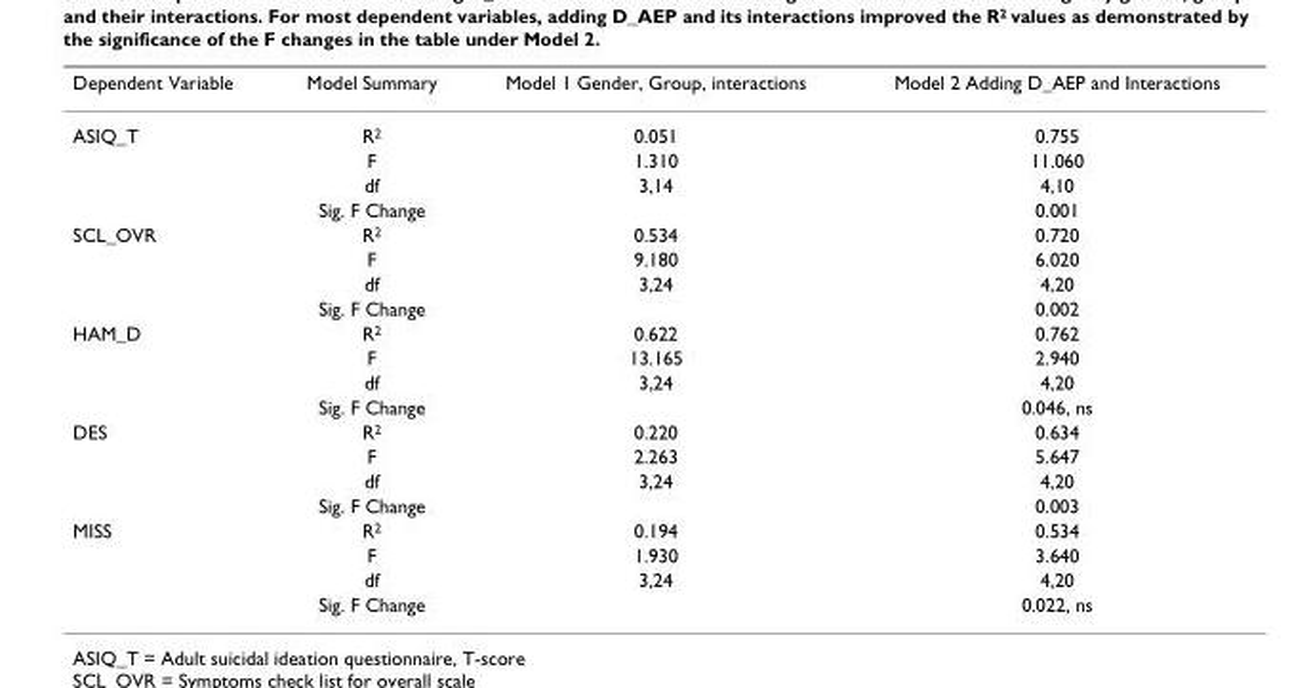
<table><thead><tr><td>Dependent Variable</td><td>Model Summary</td><td>Model 1 Gender, Group, interactions</td><td>Model 2 Adding D_AEP and Interactions</td></tr></thead><tbody><tr><td rowspan="4">ASIQ_T</td><td>R<sup>2</sup></td><td>0.051</td><td>0.755</td></tr><tr><td>F</td><td>1.310</td><td>11.060</td></tr><tr><td>df</td><td>3,14</td><td>4,10</td></tr><tr><td>Sig. F Change</td><td></td><td>0.001</td></tr><tr><td rowspan="4">SCL_OVR</td><td>R<sup>2</sup></td><td>0.534</td><td>0.720</td></tr><tr><td>F</td><td>9.180</td><td>6.020</td></tr><tr><td>df</td><td>3,24</td><td>4,20</td></tr><tr><td>Sig. F Change</td><td></td><td>0.002</td></tr><tr><td rowspan="4">HAM_D</td><td>R<sup>2</sup></td><td>0.622</td><td>0.762</td></tr><tr><td>F</td><td>13.165</td><td>2.940</td></tr><tr><td>df</td><td>3,24</td><td>4,20</td></tr><tr><td>Sig. F Change</td><td></td><td>0.046, ns</td></tr><tr><td rowspan="4">DES</td><td>R<sup>2</sup></td><td>0.220</td><td>0.634</td></tr><tr><td>F</td><td>2.263</td><td>5.647</td></tr><tr><td>df</td><td>3,24</td><td>4,20</td></tr><tr><td>Sig. F Change</td><td></td><td>0.003</td></tr><tr><td rowspan="4">MISS</td><td>R<sup>2</sup></td><td>0.194</td><td>0.534</td></tr><tr><td>F</td><td>1.930</td><td>3.640</td></tr><tr><td>df</td><td>3,24</td><td>4,20</td></tr><tr><td>Sig. F Change</td><td></td><td>0.022, ns</td></tr></tbody></table>